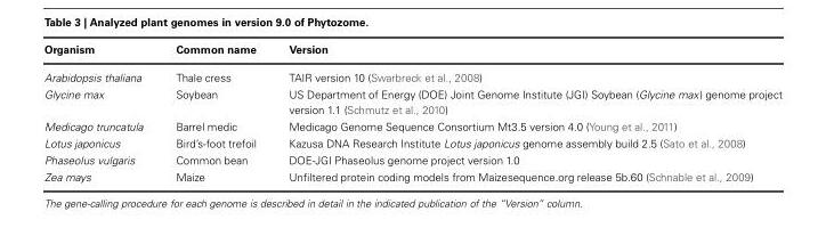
<table><thead><tr><td>Organism</td><td>Common name</td><td>Version</td></tr></thead><tbody><tr><td>Arabidopsis thaliana</td><td>Thale cress</td><td>TAIR version 10 (Swarbreck et al., 2008)</td></tr><tr><td>Glycine max</td><td>Soybean</td><td>US Department of Energy (DOE) Joint Genome Institute (JGI) Soybean (Glycine max) genome project version 1.1 (Schmutz et al., 2010)</td></tr><tr><td>Medicago truncatula</td><td>Barrel medic</td><td>Medicago Genome Sequence Consortium Mt3.5 version 4.0 (Young et al., 2011)</td></tr><tr><td>Lotus japonicus</td><td>Bird’s-foot trefoil</td><td>Kazusa DNA Research Institute Lotus japonicus genome assembly build 2.5 (Sato et al., 2008)</td></tr><tr><td>Phaseolus vulgaris</td><td>Common bean</td><td>DOE-JGI Phaseolus genome project version 1.0</td></tr><tr><td>Zea mays</td><td>Maize</td><td>Unfiltered protein coding models from Maizesequence.org release 5b.60 (Schnable et al., 2009)</td></tr></tbody></table>